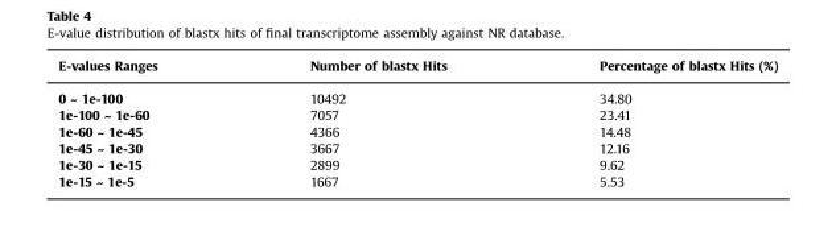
<table><thead><tr><td>E-values Ranges</td><td>Number of blastx Hits</td><td>Percentage of blastx Hits (%)</td></tr></thead><tbody><tr><td>0 ~ 1e-100</td><td>10492</td><td>34.80</td></tr><tr><td>1e-100 ~ 1e-60</td><td>7057</td><td>23.41</td></tr><tr><td>1e-60 ~ 1e-45</td><td>4366</td><td>14.48</td></tr><tr><td>1e-45 ~ 1e-30</td><td>3667</td><td>12.16</td></tr><tr><td>1e-30 ~ 1e-15</td><td>2899</td><td>9.62</td></tr><tr><td>1e-15 ~ 1e-5</td><td>1667</td><td>5.53</td></tr></tbody></table>